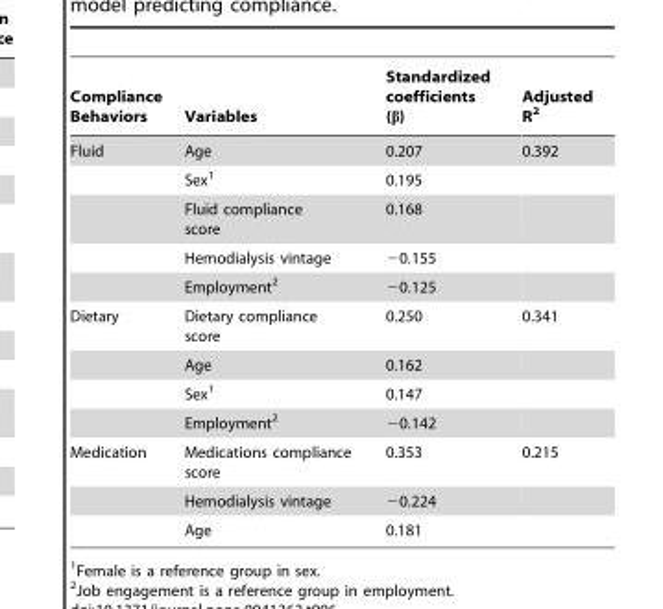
<table><thead><tr><td>Compliance Behaviors</td><td>Variables</td><td>Standardized coefficients (β)</td><td>Adjusted R<sup>2</sup></td></tr></thead><tbody><tr><td rowspan="5">Fluid</td><td>Age</td><td>0.207</td><td>0.392</td></tr><tr><td>Sex<sup>1</sup></td><td>0.195</td><td></td></tr><tr><td>Fluid compliance score</td><td>0.168</td><td></td></tr><tr><td>Hemodialysis vintage</td><td>−0.155</td><td></td></tr><tr><td>Employment<sup>2</sup></td><td>−0.125</td><td></td></tr><tr><td rowspan="4">Dietary</td><td>Dietary compliance score</td><td>0.250</td><td>0.341</td></tr><tr><td>Age</td><td>0.162</td><td></td></tr><tr><td>Sex<sup>1</sup></td><td>0.147</td><td></td></tr><tr><td>Employment<sup>2</sup></td><td>−0.142</td><td></td></tr><tr><td rowspan="3">Medication</td><td>Medications compliance score</td><td>0.353</td><td>0.215</td></tr><tr><td>Hemodialysis vintage</td><td>−0.224</td><td></td></tr><tr><td>Age</td><td>0.181</td><td></td></tr></tbody></table>